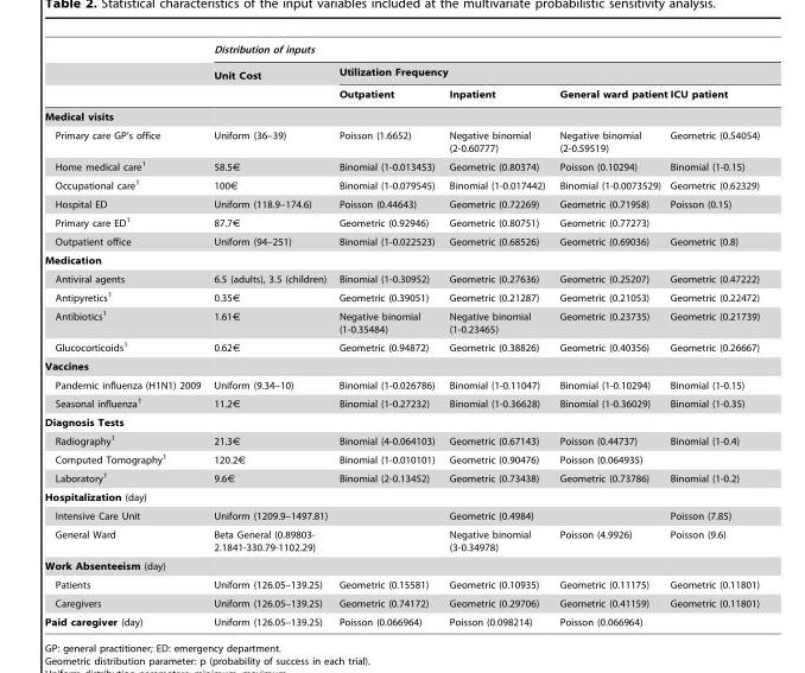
<table><thead><tr><td rowspan="3"></td><td colspan="5">Distribution of inputs</td></tr><tr><td rowspan="2">Unit Cost</td><td colspan="4">Utilization Frequency</td></tr><tr><td>Outpatient</td><td>Inpatient</td><td>General ward patient</td><td>ICU patient</td></tr></thead><tbody><tr><td colspan="6">Medical visits</td></tr><tr><td>Primary care GP’s office</td><td>Uniform (36–39)</td><td>Poisson (1.6652)</td><td>Negative binomial (2-0.60777)</td><td>Negative binomial (2-0.59519)</td><td>Geometric (0.54054)</td></tr><tr><td>Home medical care<sup>1</sup></td><td>58.5€</td><td>Binomial (1-0.013453)</td><td>Geometric (0.80374)</td><td>Poisson (0.10294)</td><td>Binomial (1-0.15)</td></tr><tr><td>Occupational care<sup>1</sup></td><td>100€</td><td>Binomial (1-0.079545)</td><td>Binomial (1-0.017442)</td><td>Binomial (1-0.0073529)</td><td>Geometric (0.62329)</td></tr><tr><td>Hospital ED</td><td>Uniform (118.9–174.6)</td><td>Poisson (0.44643)</td><td>Geometric (0.72269)</td><td>Geometric (0.71958)</td><td>Poisson (0.15)</td></tr><tr><td>Primary care ED<sup>1</sup></td><td>87.7€</td><td>Geometric (0.92946)</td><td>Geometric (0.80751)</td><td>Geometric (0.77273)</td><td></td></tr><tr><td>Outpatient office</td><td>Uniform (94–251)</td><td>Binomial (1-0.022523)</td><td>Geometric (0.68526)</td><td>Geometric (0.69036)</td><td>Geometric (0.8)</td></tr><tr><td colspan="6">Medication</td></tr><tr><td>Antiviral agents</td><td>6.5 (adults), 3.5 (children)</td><td>Binomial (1-0.30952)</td><td>Geometric (0.27636)</td><td>Geometric (0.25207)</td><td>Geometric (0.47222)</td></tr><tr><td>Antipyretics<sup>1</sup></td><td>0.35€</td><td>Geometric (0.39051)</td><td>Geometric (0.21287)</td><td>Geometric (0.21053)</td><td>Geometric (0.22472)</td></tr><tr><td>Antibiotics<sup>1</sup></td><td>1.61€</td><td>Negative binomial (1-0.35484)</td><td>Negative binomial (1-0.23465)</td><td>Geometric (0.23735)</td><td>Geometric (0.21739)</td></tr><tr><td>Glucocorticoids<sup>1</sup></td><td>0.62€</td><td>Geometric (0.94872)</td><td>Geometric (0.38826)</td><td>Geometric (0.40356)</td><td>Geometric (0.26667)</td></tr><tr><td colspan="6">Vaccines</td></tr><tr><td>Pandemic influenza (H1N1) 2009</td><td>Uniform (9.34–10)</td><td>Binomial (1-0.026786)</td><td>Binomial (1-0.11047)</td><td>Binomial (1-0.10294)</td><td>Binomial (1-0.15)</td></tr><tr><td>Seasonal influenza<sup>1</sup></td><td>11.2€</td><td>Binomial (1-0.27232)</td><td>Binomial (1-0.36628)</td><td>Binomial (1-0.36029)</td><td>Binomial (1-0.35)</td></tr><tr><td colspan="6">Diagnosis Tests</td></tr><tr><td>Radiography<sup>1</sup></td><td>21.3€</td><td>Binomial (4-0.064103)</td><td>Geometric (0.67143)</td><td>Poisson (0.44737)</td><td>Binomial (1-0.4)</td></tr><tr><td>Computed Tomography<sup>1</sup></td><td>120.2€</td><td>Binomial (1-0.010101)</td><td>Geometric (0.90476)</td><td>Poisson (0.064935)</td><td></td></tr><tr><td>Laboratory<sup>1</sup></td><td>9.6€</td><td>Binomial (2-0.13452)</td><td>Geometric (0.73438)</td><td>Geometric (0.73786)</td><td>Binomial (1-0.2)</td></tr><tr><td colspan="6">Hospitalization (day)</td></tr><tr><td>Intensive Care Unit</td><td>Uniform (1209.9–1497.81)</td><td></td><td>Geometric (0.4984)</td><td></td><td>Poisson (7.85)</td></tr><tr><td>General Ward</td><td>Beta General (0.89803- 2.1841-330.79-1102.29)</td><td></td><td>Negative binomial (3-0.34978)</td><td>Poisson (4.9926)</td><td>Poisson (9.6)</td></tr><tr><td colspan="6">Work Absenteeism (day)</td></tr><tr><td>Patients</td><td>Uniform (126.05–139.25)</td><td>Geometric (0.15581)</td><td>Geometric (0.10935)</td><td>Geometric (0.11175)</td><td>Geometric (0.11801)</td></tr><tr><td>Caregivers</td><td>Uniform (126.05–139.25)</td><td>Geometric (0.74172)</td><td>Geometric (0.29706)</td><td>Geometric (0.41159)</td><td>Geometric (0.11801)</td></tr><tr><td>Paid caregiver (day)</td><td>Uniform (126.05–139.25)</td><td>Poisson (0.066964)</td><td>Poisson (0.098214)</td><td>Poisson (0.066964)</td><td></td></tr></tbody></table>